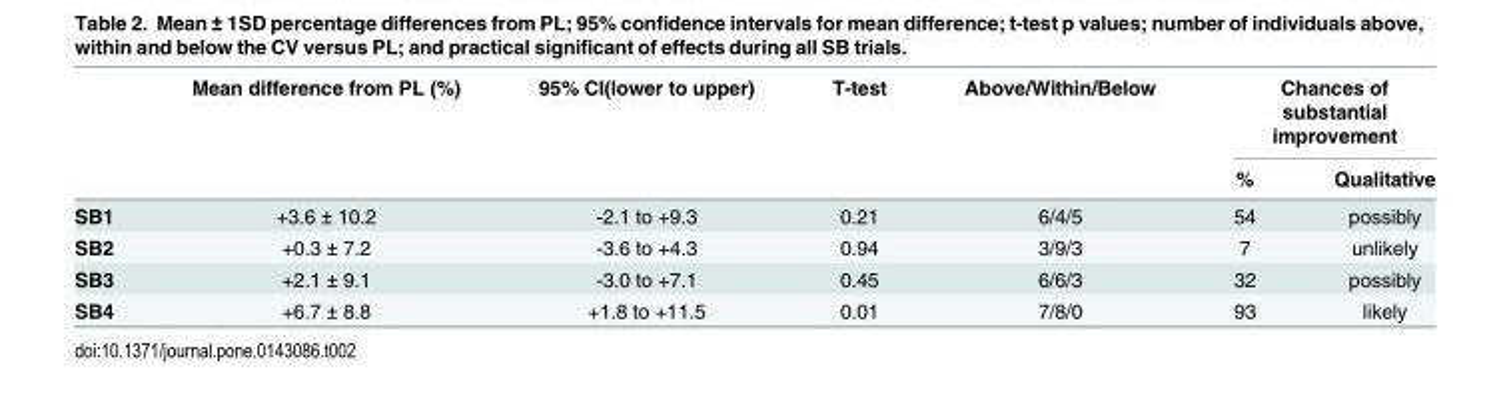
<table><thead><tr><td rowspan="2"></td><td rowspan="2">Mean difference from PL (%)</td><td rowspan="2">95% CI(lower to upper)</td><td rowspan="2">T-test</td><td rowspan="2">Above/Within/Below</td><td colspan="2">Chances of substantial improvement</td></tr><tr><td>%</td><td>Qualitative</td></tr></thead><tbody><tr><td>SB1</td><td>+3.6 ± 10.2</td><td>-2.1 to +9.3</td><td>0.21</td><td>6/4/5</td><td>54</td><td>possibly</td></tr><tr><td>SB2</td><td>+0.3 ± 7.2</td><td>-3.6 to +4.3</td><td>0.94</td><td>3/9/3</td><td>7</td><td>unlikely</td></tr><tr><td>SB3</td><td>+2.1 ± 9.1</td><td>-3.0 to +7.1</td><td>0.45</td><td>6/6/3</td><td>32</td><td>possibly</td></tr><tr><td>SB4</td><td>+6.7 ± 8.8</td><td>+1.8 to +11.5</td><td>0.01</td><td>7/8/0</td><td>93</td><td>likely</td></tr></tbody></table>